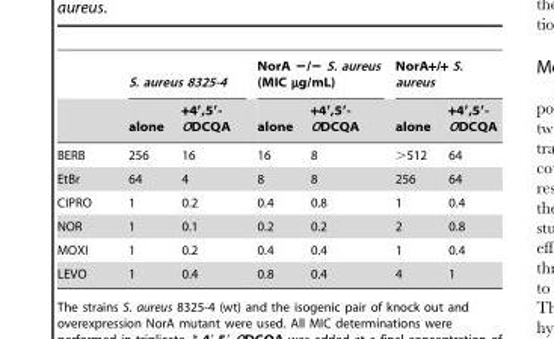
<table><thead><tr><td rowspan="2"></td><td colspan="2">S. aureus 8325-4</td><td colspan="2">NorA −/− S. aureus (MIC µg/mL)</td><td colspan="2">NorA+/+ S. aureus</td></tr><tr><td>alone</td><td>+4′,5′- ODCQA</td><td>alone</td><td>+4′,5′- ODCQA</td><td>alone</td><td>+4′,5′- ODCQA</td></tr></thead><tbody><tr><td>BERB</td><td>256</td><td>16</td><td>16</td><td>8</td><td>&gt;512</td><td>64</td></tr><tr><td>EtBr</td><td>64</td><td>4</td><td>8</td><td>8</td><td>256</td><td>64</td></tr><tr><td>CIPRO</td><td>1</td><td>0.2</td><td>0.4</td><td>0.8</td><td>1</td><td>0.4</td></tr><tr><td>NOR</td><td>1</td><td>0.1</td><td>0.2</td><td>0.2</td><td>2</td><td>0.8</td></tr><tr><td>MOXI</td><td>1</td><td>0.2</td><td>0.4</td><td>0.4</td><td>1</td><td>0.4</td></tr><tr><td>LEVO</td><td>1</td><td>0.4</td><td>0.8</td><td>0.4</td><td>4</td><td>1</td></tr></tbody></table>